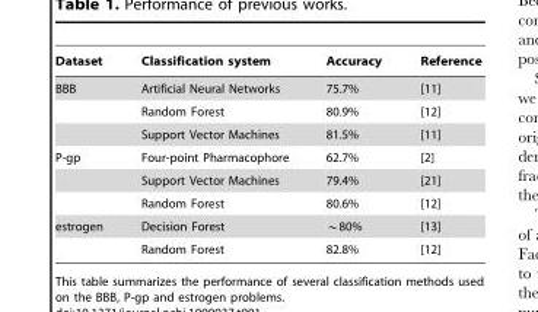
<table><thead><tr><td>Dataset</td><td>Classification system</td><td>Accuracy</td><td>Reference</td></tr></thead><tbody><tr><td rowspan="3">BBB</td><td>Artificial Neural Networks</td><td>75.7%</td><td>[11]</td></tr><tr><td>Random Forest</td><td>80.9%</td><td>[12]</td></tr><tr><td>Support Vector Machines</td><td>81.5%</td><td>[11]</td></tr><tr><td rowspan="3">P-gp</td><td>Four-point Pharmacophore</td><td>62.7%</td><td>[2]</td></tr><tr><td>Support Vector Machines</td><td>79.4%</td><td>[21]</td></tr><tr><td>Random Forest</td><td>80.6%</td><td>[12]</td></tr><tr><td rowspan="2">estrogen</td><td>Decision Forest</td><td>*80%</td><td>[13]</td></tr><tr><td>Random Forest</td><td>82.8%</td><td>[12]</td></tr></tbody></table>